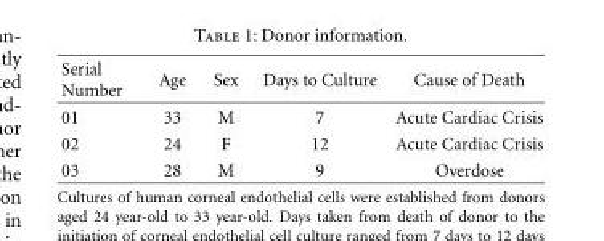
<table><thead><tr><td>Serial Number</td><td>Age</td><td>Sex</td><td>Days to Culture</td><td>Cause of Death</td></tr></thead><tbody><tr><td>01</td><td>33</td><td>M</td><td>7</td><td>Acute Cardiac Crisis</td></tr><tr><td>02</td><td>24</td><td>F</td><td>12</td><td>Acute Cardiac Crisis</td></tr><tr><td>03</td><td>28</td><td>M</td><td>9</td><td>Overdose</td></tr></tbody></table>